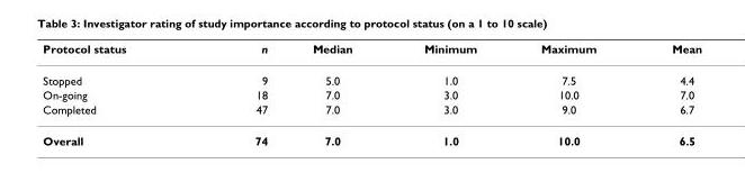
<table><thead><tr><td>Protocol status</td><td>n</td><td>Median</td><td>Minimum</td><td>Maximum</td><td>Mean</td></tr></thead><tbody><tr><td>Stopped</td><td>9</td><td>5.0</td><td>1.0</td><td>7.5</td><td>4.4</td></tr><tr><td>On-going</td><td>18</td><td>7.0</td><td>3.0</td><td>10.0</td><td>7.0</td></tr><tr><td>Completed</td><td>47</td><td>7.0</td><td>3.0</td><td>9.0</td><td>6.7</td></tr><tr><td>Overall</td><td>74</td><td>7.0</td><td>1.0</td><td>10.0</td><td>6.5</td></tr></tbody></table>